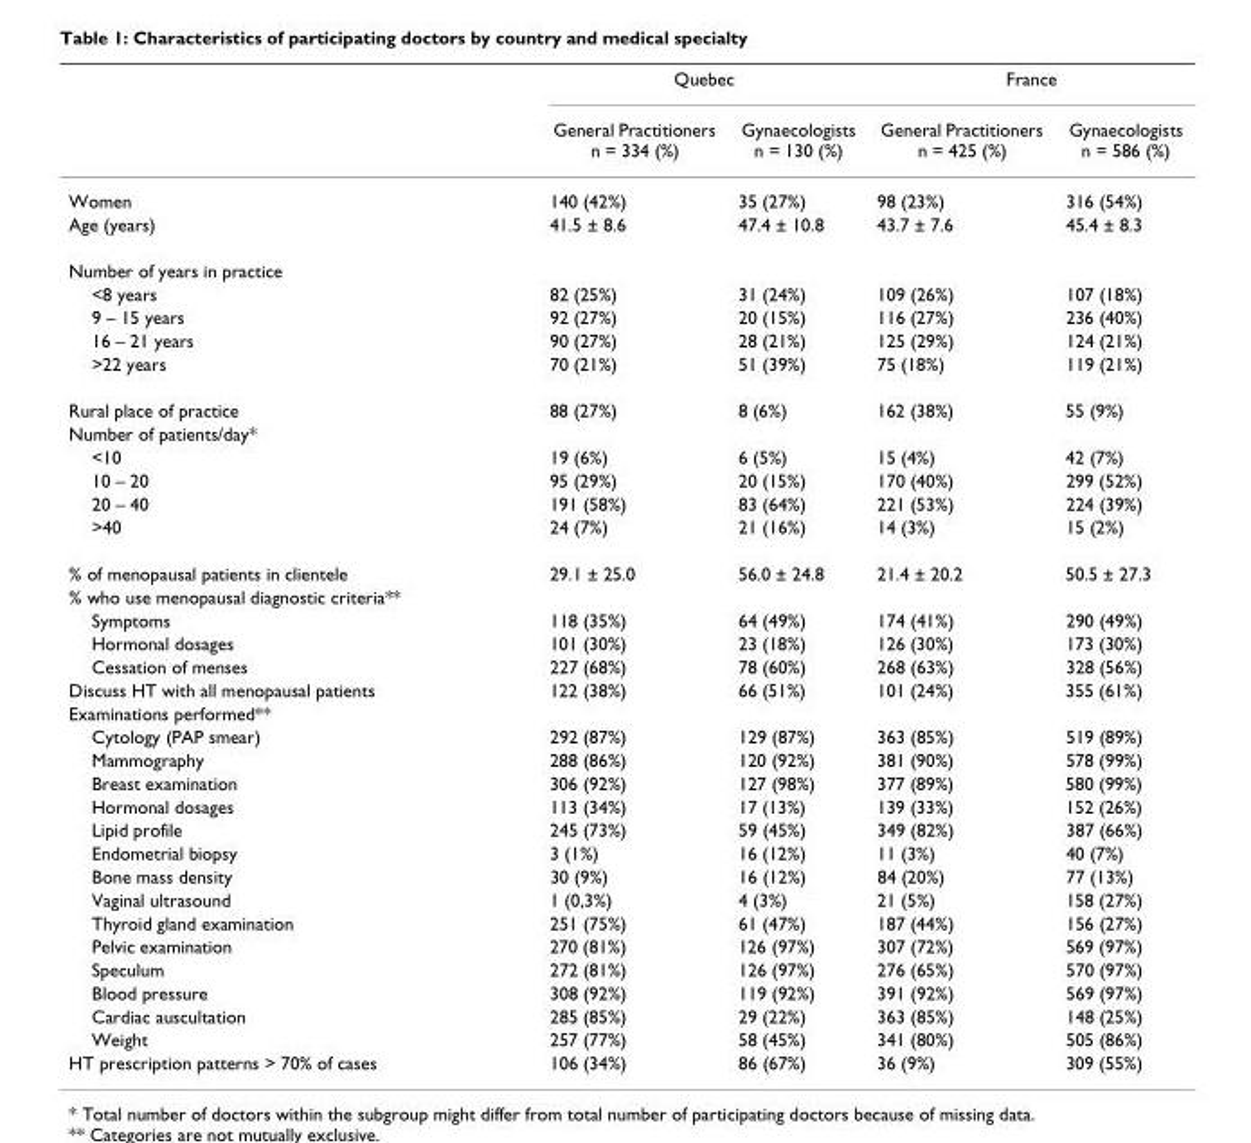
<table><thead><tr><td rowspan="2"></td><td colspan="2">Quebec</td><td colspan="2">France</td></tr><tr><td>General Practitioners n = 334 (%)</td><td>Gynaecologists n = 130 (%)</td><td>General Practitioners n = 425 (%)</td><td>Gynaecologists n = 586 (%)</td></tr></thead><tbody><tr><td>Women</td><td>140 (42%)</td><td>35 (27%)</td><td>98 (23%)</td><td>316 (54%)</td></tr><tr><td>Age (years)</td><td>41.5 ± 8.6</td><td>47.4 ± 10.8</td><td>43.7 ± 7.6</td><td>45.4 ± 8.3</td></tr><tr><td colspan="5">Number of years in practice</td></tr><tr><td>&lt;8 years</td><td>82 (25%)</td><td>31 (24%)</td><td>109 (26%)</td><td>107 (18%)</td></tr><tr><td>9 – 15 years</td><td>92 (27%)</td><td>20 (15%)</td><td>116 (27%)</td><td>236 (40%)</td></tr><tr><td>16 – 21 years</td><td>90 (27%)</td><td>28 (21%)</td><td>125 (29%)</td><td>124 (21%)</td></tr><tr><td>&gt;22 years</td><td>70 (21%)</td><td>51 (39%)</td><td>75 (18%)</td><td>119 (21%)</td></tr><tr><td>Rural place of practice</td><td>88 (27%)</td><td>8 (6%)</td><td>162 (38%)</td><td>55 (9%)</td></tr><tr><td colspan="5">Number of patients/day*</td></tr><tr><td>&lt;10</td><td>19 (6%)</td><td>6 (5%)</td><td>15 (4%)</td><td>42 (7%)</td></tr><tr><td>10 – 20</td><td>95 (29%)</td><td>20 (15%)</td><td>170 (40%)</td><td>299 (52%)</td></tr><tr><td>20 – 40</td><td>191 (58%)</td><td>83 (64%)</td><td>221 (53%)</td><td>224 (39%)</td></tr><tr><td>&gt;40</td><td>24 (7%)</td><td>21 (16%)</td><td>14 (3%)</td><td>15 (2%)</td></tr><tr><td>% of menopausal patients in clientele</td><td>29.1 ± 25.0</td><td>56.0 ± 24.8</td><td>21.4 ± 20.2</td><td>50.5 ± 27.3</td></tr><tr><td colspan="5">% who use menopausal diagnostic criteria**</td></tr><tr><td>Symptoms</td><td>118 (35%)</td><td>64 (49%)</td><td>174 (41%)</td><td>290 (49%)</td></tr><tr><td>Hormonal dosages</td><td>101 (30%)</td><td>23 (18%)</td><td>126 (30%)</td><td>173 (30%)</td></tr><tr><td>Cessation of menses</td><td>227 (68%)</td><td>78 (60%)</td><td>268 (63%)</td><td>328 (56%)</td></tr><tr><td>Discuss HT with all menopausal patients</td><td>122 (38%)</td><td>66 (51%)</td><td>101 (24%)</td><td>355 (61%)</td></tr><tr><td colspan="5">Examinations performed**</td></tr><tr><td>Cytology (PAP smear)</td><td>292 (87%)</td><td>129 (87%)</td><td>363 (85%)</td><td>519 (89%)</td></tr><tr><td>Mammography</td><td>288 (86%)</td><td>120 (92%)</td><td>381 (90%)</td><td>578 (99%)</td></tr><tr><td>Breast examination</td><td>306 (92%)</td><td>127 (98%)</td><td>377 (89%)</td><td>580 (99%)</td></tr><tr><td>Hormonal dosages</td><td>113 (34%)</td><td>17 (13%)</td><td>139 (33%)</td><td>152 (26%)</td></tr><tr><td>Lipid profile</td><td>245 (73%)</td><td>59 (45%)</td><td>349 (82%)</td><td>387 (66%)</td></tr><tr><td>Endometrial biopsy</td><td>3 (1%)</td><td>16 (12%)</td><td>11 (3%)</td><td>40 (7%)</td></tr><tr><td>Bone mass density</td><td>30 (9%)</td><td>16 (12%)</td><td>84 (20%)</td><td>77 (13%)</td></tr><tr><td>Vaginal ultrasound</td><td>1 (0,3%)</td><td>4 (3%)</td><td>21 (5%)</td><td>158 (27%)</td></tr><tr><td>Thyroid gland examination</td><td>251 (75%)</td><td>61 (47%)</td><td>187 (44%)</td><td>156 (27%)</td></tr><tr><td>Pelvic examination</td><td>270 (81%)</td><td>126 (97%)</td><td>307 (72%)</td><td>569 (97%)</td></tr><tr><td>Speculum</td><td>272 (81%)</td><td>126 (97%)</td><td>276 (65%)</td><td>570 (97%)</td></tr><tr><td>Blood pressure</td><td>308 (92%)</td><td>119 (92%)</td><td>391 (92%)</td><td>569 (97%)</td></tr><tr><td>Cardiac auscultation</td><td>285 (85%)</td><td>29 (22%)</td><td>363 (85%)</td><td>148 (25%)</td></tr><tr><td>Weight</td><td>257 (77%)</td><td>58 (45%)</td><td>341 (80%)</td><td>505 (86%)</td></tr><tr><td>HT prescription patterns &gt; 70% of cases</td><td>106 (34%)</td><td>86 (67%)</td><td>36 (9%)</td><td>309 (55%)</td></tr></tbody></table>